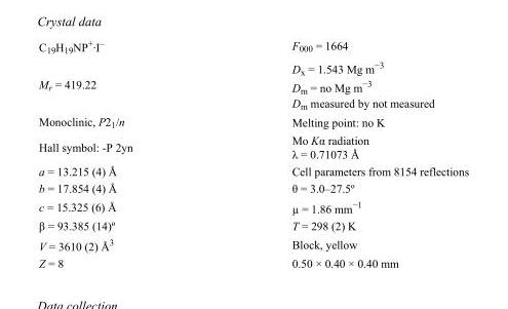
<table><tbody><tr><td>C<sub>19</sub>H<sub>19</sub>NP<sup>+</sup>·I<sup>–</sup></td><td>F000 = 1664</td></tr><tr><td>M<sub>r</sub> = 419.22</td><td>D<sub>x</sub> = 1.543 Mg m<sup>−3</sup> D<sub>m</sub> = no Mg m<sup>−3</sup> D<sub>m</sub> measured by not measured</td></tr><tr><td>Monoclinic, P2<sub>1</sub>/n</td><td>Melting point: no K</td></tr><tr><td>Hall symbol: -P 2yn</td><td>Mo Kα radiation λ = 0.71073 Å</td></tr><tr><td>a = 13.215 (4) Å</td><td>Cell parameters from 8154 reflections</td></tr><tr><td>b = 17.854 (4) Å</td><td>θ = 3.0–27.5º</td></tr><tr><td>c = 15.325 (6) Å</td><td>µ = 1.86 mm<sup>−1</sup></td></tr><tr><td>β = 93.385 (14)º</td><td>T = 298 (2) K</td></tr><tr><td>V = 3610 (2) Å<sup>3</sup></td><td>Block, yellow</td></tr><tr><td>Z = 8</td><td>0.50 × 0.40 × 0.40 mm</td></tr></tbody></table>